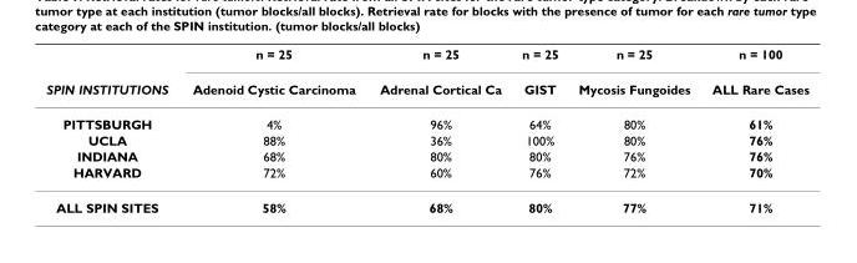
<table><thead><tr><td rowspan="2">SPIN INSTITUTIONS</td><td rowspan="2">n = 25 Adenoid Cystic Carcinoma</td><td rowspan="2">n = 25 Adrenal Cortical Ca</td><td rowspan="2">n = 25 GIST</td><td rowspan="2">n = 25 Mycosis Fungoides</td><td rowspan="2">n = 100 ALL Rare Cases</td></tr><tr></tr></thead><tbody><tr><td>PITTSBURGH</td><td>4%</td><td>96%</td><td>64%</td><td>80%</td><td>61%</td></tr><tr><td>UCLA</td><td>88%</td><td>36%</td><td>100%</td><td>80%</td><td>76%</td></tr><tr><td>INDIANA</td><td>68%</td><td>80%</td><td>80%</td><td>76%</td><td>76%</td></tr><tr><td>HARVARD</td><td>72%</td><td>60%</td><td>76%</td><td>72%</td><td>70%</td></tr><tr><td>ALL SPIN SITES</td><td>58%</td><td>68%</td><td>80%</td><td>77%</td><td>71%</td></tr></tbody></table>